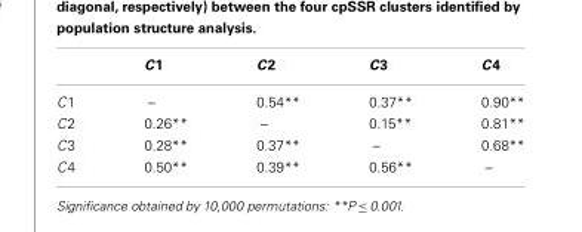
<table><thead><tr><td></td><td>C1</td><td>C2</td><td>C3</td><td>C4</td></tr></thead><tbody><tr><td>C1</td><td>–</td><td>0.54**</td><td>0.37**</td><td>0.90**</td></tr><tr><td>C2</td><td>0.26**</td><td>–</td><td>0.15**</td><td>0.81**</td></tr><tr><td>C3</td><td>0.28**</td><td>0.37**</td><td>–</td><td>0.68**</td></tr><tr><td>C4</td><td>0.50**</td><td>0.39**</td><td>0.56**</td><td>–</td></tr></tbody></table>